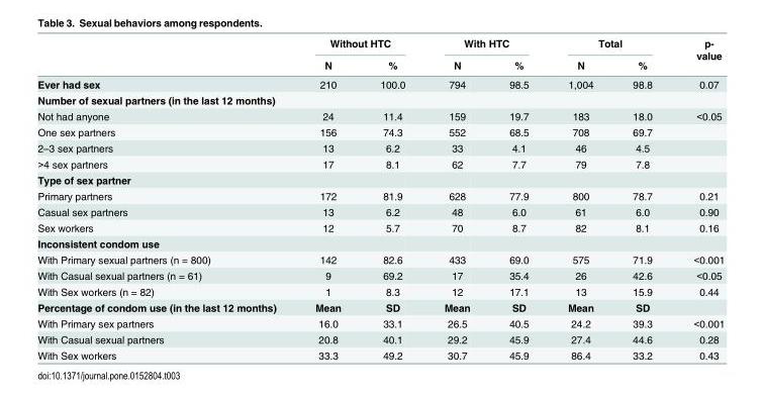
<table><thead><tr><td rowspan="2"></td><td colspan="2">Without HTC</td><td colspan="2">With HTC</td><td colspan="2">Total</td><td rowspan="2">p- value</td></tr><tr><td>N</td><td>%</td><td>N</td><td>%</td><td>N</td><td>%</td></tr></thead><tbody><tr><td>Ever had sex</td><td>210</td><td>100.0</td><td>794</td><td>98.5</td><td>1,004</td><td>98.8</td><td>0.07</td></tr><tr><td colspan="8">Number of sexual partners (in the last 12 months)</td></tr><tr><td>Not had anyone</td><td>24</td><td>11.4</td><td>159</td><td>19.7</td><td>183</td><td>18.0</td><td>&lt;0.05</td></tr><tr><td>One sex partners</td><td>156</td><td>74.3</td><td>552</td><td>68.5</td><td>708</td><td>69.7</td><td></td></tr><tr><td>2–3 sex partners</td><td>13</td><td>6.2</td><td>33</td><td>4.1</td><td>46</td><td>4.5</td><td></td></tr><tr><td>&gt;4 sex partners</td><td>17</td><td>8.1</td><td>62</td><td>7.7</td><td>79</td><td>7.8</td><td></td></tr><tr><td colspan="8">Type of sex partner</td></tr><tr><td>Primary partners</td><td>172</td><td>81.9</td><td>628</td><td>77.9</td><td>800</td><td>78.7</td><td>0.21</td></tr><tr><td>Casual sex partners</td><td>13</td><td>6.2</td><td>48</td><td>6.0</td><td>61</td><td>6.0</td><td>0.90</td></tr><tr><td>Sex workers</td><td>12</td><td>5.7</td><td>70</td><td>8.7</td><td>82</td><td>8.1</td><td>0.16</td></tr><tr><td colspan="8">Inconsistent condom use</td></tr><tr><td>With Primary sexual partners (n = 800)</td><td>142</td><td>82.6</td><td>433</td><td>69.0</td><td>575</td><td>71.9</td><td>&lt;0.001</td></tr><tr><td>With Casual sexual partners (n = 61)</td><td>9</td><td>69.2</td><td>17</td><td>35.4</td><td>26</td><td>42.6</td><td>&lt;0.05</td></tr><tr><td>With Sex workers (n = 82)</td><td>1</td><td>8.3</td><td>12</td><td>17.1</td><td>13</td><td>15.9</td><td>0.44</td></tr><tr><td>Percentage of condom use (in the last 12 months)</td><td>Mean</td><td>SD</td><td>Mean</td><td>SD</td><td>Mean</td><td>SD</td><td></td></tr><tr><td>With Primary sex partners</td><td>16.0</td><td>33.1</td><td>26.5</td><td>40.5</td><td>24.2</td><td>39.3</td><td>&lt;0.001</td></tr><tr><td>With Casual sexual partners</td><td>20.8</td><td>40.1</td><td>29.2</td><td>45.9</td><td>27.4</td><td>44.6</td><td>0.28</td></tr><tr><td>With Sex workers</td><td>33.3</td><td>49.2</td><td>30.7</td><td>45.9</td><td>86.4</td><td>33.2</td><td>0.43</td></tr></tbody></table>